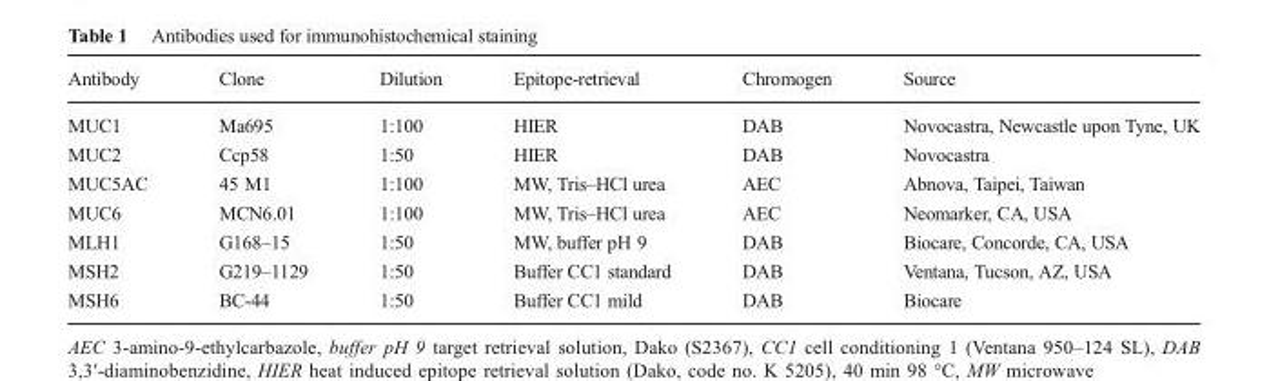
<table><thead><tr><td>Antibody</td><td>Clone</td><td>Dilution</td><td>Epitope-retrieval</td><td>Chromogen</td><td>Source</td></tr></thead><tbody><tr><td>MUC1</td><td>Ma695</td><td>1:100</td><td>HIER</td><td>DAB</td><td>Novocastra, Newcastle upon Tyne, UK</td></tr><tr><td>MUC2</td><td>Ccp58</td><td>1:50</td><td>HIER</td><td>DAB</td><td>Novocastra</td></tr><tr><td>MUC5AC</td><td>45 M1</td><td>1:100</td><td>MW, Tris–HCl urea</td><td>AEC</td><td>Abnova, Taipei, Taiwan</td></tr><tr><td>MUC6</td><td>MCN6.01</td><td>1:100</td><td>MW, Tris–HCl urea</td><td>AEC</td><td>Neomarker, CA, USA</td></tr><tr><td>MLH1</td><td>G168–15</td><td>1:50</td><td>MW, buffer pH 9</td><td>DAB</td><td>Biocare, Concorde, CA, USA</td></tr><tr><td>MSH2</td><td>G219–1129</td><td>1:50</td><td>Buffer CC1 standard</td><td>DAB</td><td>Ventana, Tucson, AZ, USA</td></tr><tr><td>MSH6</td><td>BC-44</td><td>1:50</td><td>Buffer CC1 mild</td><td>DAB</td><td>Biocare</td></tr></tbody></table>